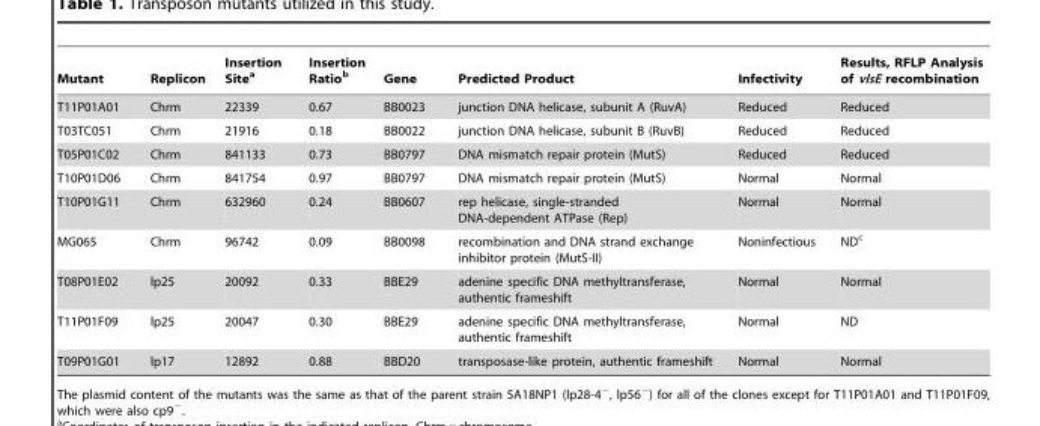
<table><thead><tr><td>Mutant</td><td>Replicon</td><td>Insertion Site<sup>a</sup></td><td>Insertion Ratio<sup>b</sup></td><td>Gene</td><td>Predicted Product</td><td>Infectivity</td><td>Results, RFLP Analysis of vlsE recombination</td></tr></thead><tbody><tr><td>T11P01A01</td><td>Chrm</td><td>22339</td><td>0.67</td><td>BB0023</td><td>junction DNA helicase, subunit A (RuvA)</td><td>Reduced</td><td>Reduced</td></tr><tr><td>T03TC051</td><td>Chrm</td><td>21916</td><td>0.18</td><td>BB0022</td><td>junction DNA helicase, subunit B (RuvB)</td><td>Reduced</td><td>Reduced</td></tr><tr><td>T05P01C02</td><td>Chrm</td><td>841133</td><td>0.73</td><td>BB0797</td><td>DNA mismatch repair protein (MutS)</td><td>Reduced</td><td>Reduced</td></tr><tr><td>T10P01D06</td><td>Chrm</td><td>841754</td><td>0.97</td><td>BB0797</td><td>DNA mismatch repair protein (MutS)</td><td>Normal</td><td>Normal</td></tr><tr><td>T10P01G11</td><td>Chrm</td><td>632960</td><td>0.24</td><td>BB0607</td><td>rep helicase, single-stranded DNA-dependent ATPase (Rep)</td><td>Normal</td><td>Normal</td></tr><tr><td>MG065</td><td>Chrm</td><td>96742</td><td>0.09</td><td>BB0098</td><td>recombination and DNA strand exchange inhibitor protein (MutS-II)</td><td>Noninfectious</td><td>ND<sup>c</sup></td></tr><tr><td>T08P01E02</td><td>lp25</td><td>20092</td><td>0.33</td><td>BBE29</td><td>adenine specific DNA methyltransferase, authentic frameshift</td><td>Normal</td><td>Normal</td></tr><tr><td>T11P01F09</td><td>lp25</td><td>20047</td><td>0.30</td><td>BBE29</td><td>adenine specific DNA methyltransferase, authentic frameshift</td><td>Normal</td><td>ND</td></tr><tr><td>T09P01G01</td><td>lp17</td><td>12892</td><td>0.88</td><td>BBD20</td><td>transposase-like protein, authentic frameshift</td><td>Normal</td><td>Normal</td></tr></tbody></table>